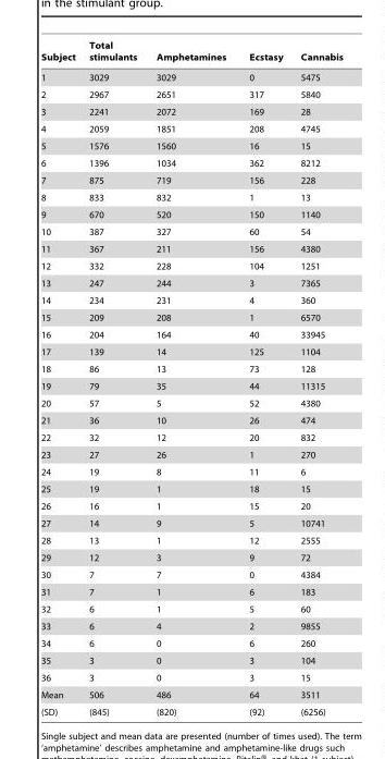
<table><thead><tr><td>Subject</td><td>Total stimulants</td><td>Amphetamines</td><td>Ecstasy</td><td>Cannabis</td></tr></thead><tbody><tr><td>1</td><td>3029</td><td>3029</td><td>0</td><td>5475</td></tr><tr><td>2</td><td>2967</td><td>2651</td><td>317</td><td>5840</td></tr><tr><td>3</td><td>2241</td><td>2072</td><td>169</td><td>28</td></tr><tr><td>4</td><td>2059</td><td>1851</td><td>208</td><td>4745</td></tr><tr><td>5</td><td>1576</td><td>1560</td><td>16</td><td>15</td></tr><tr><td>6</td><td>1396</td><td>1034</td><td>362</td><td>8212</td></tr><tr><td>7</td><td>875</td><td>719</td><td>156</td><td>228</td></tr><tr><td>8</td><td>833</td><td>832</td><td>1</td><td>13</td></tr><tr><td>9</td><td>670</td><td>520</td><td>150</td><td>1140</td></tr><tr><td>10</td><td>387</td><td>327</td><td>60</td><td>54</td></tr><tr><td>11</td><td>367</td><td>211</td><td>156</td><td>4380</td></tr><tr><td>12</td><td>332</td><td>228</td><td>104</td><td>1251</td></tr><tr><td>13</td><td>247</td><td>244</td><td>3</td><td>7365</td></tr><tr><td>14</td><td>234</td><td>231</td><td>4</td><td>360</td></tr><tr><td>15</td><td>209</td><td>208</td><td>1</td><td>6570</td></tr><tr><td>16</td><td>204</td><td>164</td><td>40</td><td>33945</td></tr><tr><td>17</td><td>139</td><td>14</td><td>125</td><td>1104</td></tr><tr><td>18</td><td>86</td><td>13</td><td>73</td><td>128</td></tr><tr><td>19</td><td>79</td><td>35</td><td>44</td><td>11315</td></tr><tr><td>20</td><td>57</td><td>5</td><td>52</td><td>4380</td></tr><tr><td>21</td><td>36</td><td>10</td><td>26</td><td>474</td></tr><tr><td>22</td><td>32</td><td>12</td><td>20</td><td>832</td></tr><tr><td>23</td><td>27</td><td>26</td><td>1</td><td>270</td></tr><tr><td>24</td><td>19</td><td>8</td><td>11</td><td>6</td></tr><tr><td>25</td><td>19</td><td>1</td><td>18</td><td>15</td></tr><tr><td>26</td><td>16</td><td>1</td><td>15</td><td>20</td></tr><tr><td>27</td><td>14</td><td>9</td><td>5</td><td>10741</td></tr><tr><td>28</td><td>13</td><td>1</td><td>12</td><td>2555</td></tr><tr><td>29</td><td>12</td><td>3</td><td>9</td><td>72</td></tr><tr><td>30</td><td>7</td><td>7</td><td>0</td><td>4384</td></tr><tr><td>31</td><td>7</td><td>1</td><td>6</td><td>183</td></tr><tr><td>32</td><td>6</td><td>1</td><td>5</td><td>60</td></tr><tr><td>33</td><td>6</td><td>4</td><td>2</td><td>9855</td></tr><tr><td>34</td><td>6</td><td>0</td><td>6</td><td>260</td></tr><tr><td>35</td><td>3</td><td>0</td><td>3</td><td>104</td></tr><tr><td>36</td><td>3</td><td>0</td><td>3</td><td>15</td></tr><tr><td>Mean</td><td>506</td><td>486</td><td>64</td><td>3511</td></tr><tr><td>(SD)</td><td>(845)</td><td>(820)</td><td>(92)</td><td>(6256)</td></tr></tbody></table>